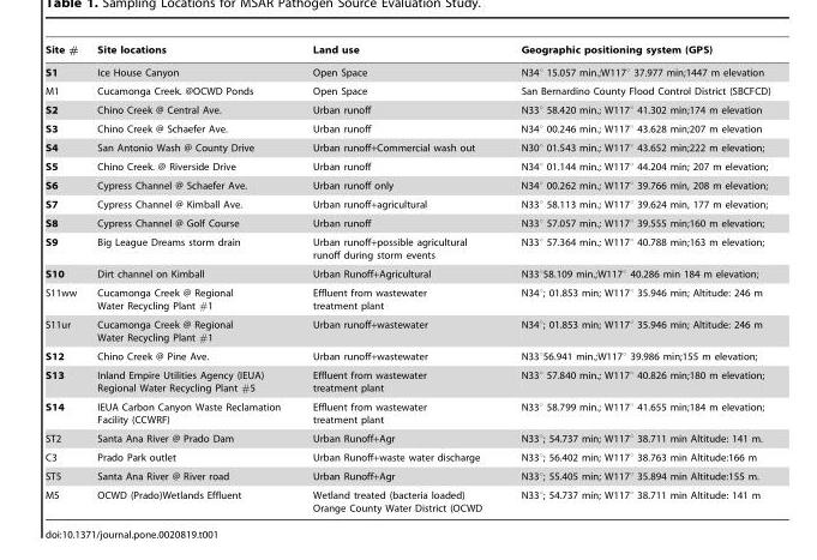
<table><thead><tr><td>Site #</td><td>Site locations</td><td>Land use</td><td>Geographic positioning system (GPS)</td></tr></thead><tbody><tr><td>S1</td><td>Ice House Canyon</td><td>Open Space</td><td>N34° 15.057 min.;W117° 37.977 min;1447 m elevation</td></tr><tr><td>M1</td><td>Cucamonga Creek. @OCWD Ponds</td><td>Open Space</td><td>San Bernardino County Flood Control District (SBCFCD)</td></tr><tr><td>S2</td><td>Chino Creek @ Central Ave.</td><td>Urban runoff</td><td>N33° 58.420 min.; W117° 41.302 min;174 m elevation</td></tr><tr><td>S3</td><td>Chino Creek @ Schaefer Ave.</td><td>Urban runoff</td><td>N34° 00.246 min.; W117° 43.628 min;207 m elevation</td></tr><tr><td>S4</td><td>San Antonio Wash @ County Drive</td><td>Urban runoff+Commercial wash out</td><td>N30° 01.543 min.; W117° 43.652 min;222 m elevation;</td></tr><tr><td>S5</td><td>Chino Creek. @ Riverside Drive</td><td>Urban runoff</td><td>N34° 01.144 min.; W117° 44.204 min; 207 m elevation;</td></tr><tr><td>S6</td><td>Cypress Channel @ Schaefer Ave.</td><td>Urban runoff only</td><td>N34° 00.262 min.; W117° 39.766 min, 208 m elevation;</td></tr><tr><td>S7</td><td>Cypress Channel @ Kimball Ave.</td><td>Urban runoff+agricultural</td><td>N33° 58.113 min.; W117° 39.624 min, 177 m elevation;</td></tr><tr><td>S8</td><td>Cypress Channel @ Golf Course</td><td>Urban runoff</td><td>N33° 57.057 min.; W117° 39.555 min;160 m elevation;</td></tr><tr><td>S9</td><td>Big League Dreams storm drain</td><td>Urban runoff+possible agricultural runoff during storm events</td><td>N33° 57.364 min.; W117° 40.788 min;163 m elevation;</td></tr><tr><td>S10</td><td>Dirt channel on Kimball</td><td>Urban Runoff+Agricultural</td><td>N33°58.109 min.;W117° 40.286 min 184 m elevation;</td></tr><tr><td>S11ww</td><td>Cucamonga Creek @ Regional Water Recycling Plant #1</td><td>Effluent from wastewater treatment plant</td><td>N34°; 01.853 min; W117° 35.946 min; Altitude: 246 m</td></tr><tr><td>S11ur</td><td>Cucamonga Creek @ Regional Water Recycling Plant #1</td><td>Urban runoff+wastewater</td><td>N34°; 01.853 min; W117° 35.946 min; Altitude: 246 m</td></tr><tr><td>S12</td><td>Chino Creek @ Pine Ave.</td><td>Urban runoff+wastewater</td><td>N33°56.941 min.;W117° 39.986 min;155 m elevation;</td></tr><tr><td>S13</td><td>Inland Empire Utilities Agency (IEUA) Regional Water Recycling Plant #5</td><td>Effluent from wastewater treatment plant</td><td>N33° 57.840 min.; W117° 40.826 min;180 m elevation;</td></tr><tr><td>S14</td><td>IEUA Carbon Canyon Waste Reclamation Facility (CCWRF)</td><td>Effluent from wastewater treatment plant</td><td>N33° 58.799 min.; W117° 41.655 min;184 m elevation;</td></tr><tr><td>ST2</td><td>Santa Ana River @ Prado Dam</td><td>Urban Runoff+Agr</td><td>N33°; 54.737 min; W117° 38.711 min Altitude: 141 m.</td></tr><tr><td>C3</td><td>Prado Park outlet</td><td>Urban Runoff+waste water discharge</td><td>N33°; 56.402 min; W117° 38.763 min Altitude:166 m</td></tr><tr><td>ST5</td><td>Santa Ana River @ River road</td><td>Urban Runoff+Agr</td><td>N33°; 55.405 min; W117° 35.894 min Altitude:155 m.</td></tr><tr><td>M5</td><td>OCWD (Prado)Wetlands Effluent</td><td>Wetland treated (bacteria loaded) Orange County Water District (OCWD</td><td>N33°; 54.737 min; W117° 38.711 min Altitude: 141 m</td></tr></tbody></table>